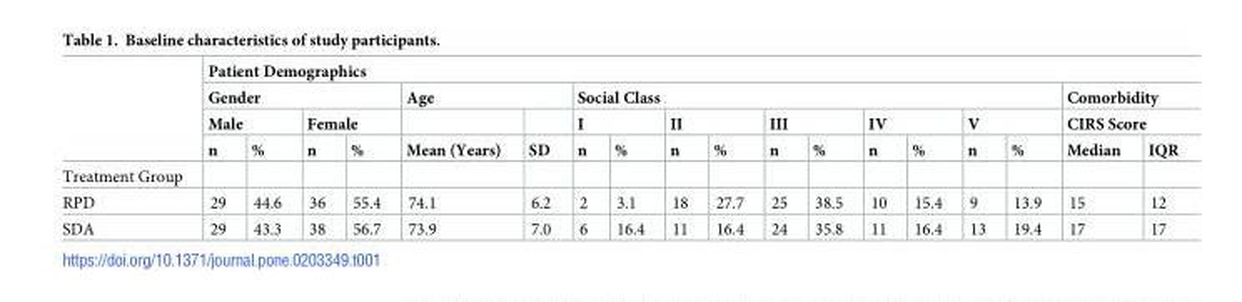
<table><thead><tr><td rowspan="4"></td><td colspan="18">Patient Demographics</td></tr><tr><td colspan="4">Gender</td><td colspan="2">Age</td><td colspan="10">Social Class</td><td rowspan="2" colspan="2">Comorbidity CIRS Score</td></tr><tr><td colspan="2">Male</td><td colspan="2">Female</td><td rowspan="2">Mean (Years)</td><td rowspan="2">SD</td><td colspan="2">I</td><td colspan="2">II</td><td colspan="2">III</td><td colspan="2">IV</td><td colspan="2">V</td></tr><tr><td>n</td><td>%</td><td>n</td><td>%</td><td>n</td><td>%</td><td>n</td><td>%</td><td>n</td><td>%</td><td>n</td><td>%</td><td>n</td><td>%</td><td>Median</td><td>IQR</td></tr></thead><tbody><tr><td colspan="19">Treatment Group</td></tr><tr><td>RPD</td><td>29</td><td>44.6</td><td>36</td><td>55.4</td><td>74.1</td><td>6.2</td><td>2</td><td>3.1</td><td>18</td><td>27.7</td><td>25</td><td>38.5</td><td>10</td><td>15.4</td><td>9</td><td>13.9</td><td>15</td><td>12</td></tr><tr><td>SDA</td><td>29</td><td>43.3</td><td>38</td><td>56.7</td><td>73.9</td><td>7.0</td><td>6</td><td>16.4</td><td>11</td><td>16.4</td><td>24</td><td>35.8</td><td>11</td><td>16.4</td><td>13</td><td>19.4</td><td>17</td><td>17</td></tr></tbody></table>